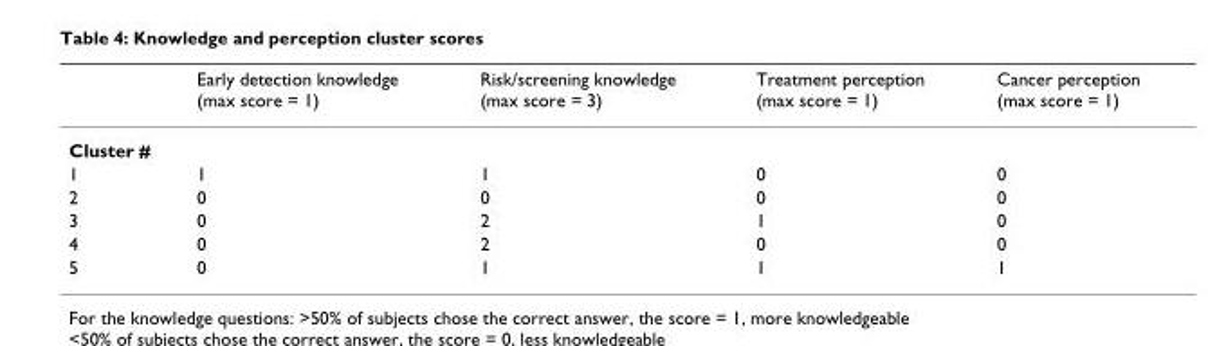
<table><thead><tr><td></td><td>Early detection knowledge (max score = 1)</td><td>Risk/screening knowledge (max score = 3)</td><td>Treatment perception (max score = 1)</td><td>Cancer perception (max score = 1)</td></tr></thead><tbody><tr><td colspan="5">Cluster #</td></tr><tr><td>1</td><td>1</td><td>1</td><td>0</td><td>0</td></tr><tr><td>2</td><td>0</td><td>0</td><td>0</td><td>0</td></tr><tr><td>3</td><td>0</td><td>2</td><td>1</td><td>0</td></tr><tr><td>4</td><td>0</td><td>2</td><td>0</td><td>0</td></tr><tr><td>5</td><td>0</td><td>1</td><td>1</td><td>1</td></tr></tbody></table>